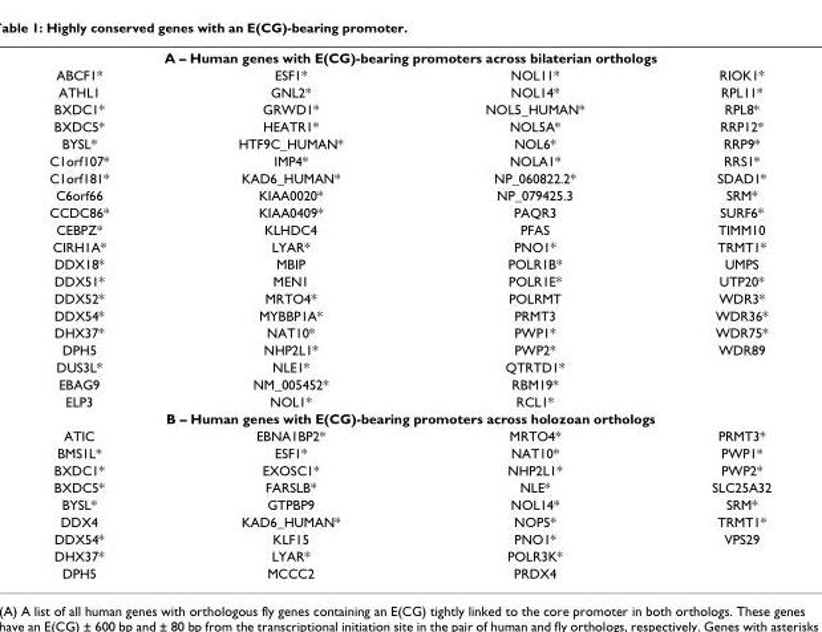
<table><tbody><tr><td colspan="4">A – Human genes with E(CG)-bearing promoters across bilaterian orthologs</td></tr><tr><td>ABCF1*</td><td>ESF1*</td><td>NOL11*</td><td>RIOK1*</td></tr><tr><td>ATHL1</td><td>GNL2*</td><td>NOL14*</td><td>RPL11*</td></tr><tr><td>BXDC1*</td><td>GRWD1*</td><td>NOL5_HUMAN*</td><td>RPL8*</td></tr><tr><td>BXDC5*</td><td>HEATR1*</td><td>NOL5A*</td><td>RRP12*</td></tr><tr><td>BYSL*</td><td>HTF9C_HUMAN*</td><td>NOL6*</td><td>RRP9*</td></tr><tr><td>C1orf107*</td><td>IMP4*</td><td>NOLA1*</td><td>RRS1*</td></tr><tr><td>C1orf181*</td><td>KAD6_HUMAN*</td><td>NP_060822.2*</td><td>SDAD1*</td></tr><tr><td>C6orf66</td><td>KIAA0020*</td><td>NP_079425.3</td><td>SRM*</td></tr><tr><td>CCDC86*</td><td>KIAA0409*</td><td>PAQR3</td><td>SURF6*</td></tr><tr><td>CEBPZ*</td><td>KLHDC4</td><td>PFAS</td><td>TIMM10</td></tr><tr><td>CIRH1A*</td><td>LYAR*</td><td>PNO1*</td><td>TRMT1*</td></tr><tr><td>DDX18*</td><td>MBIP</td><td>POLR1B*</td><td>UMPS</td></tr><tr><td>DDX51*</td><td>MEN1</td><td>POLR1E*</td><td>UTP20*</td></tr><tr><td>DDX52*</td><td>MRTO4*</td><td>POLRMT</td><td>WDR3*</td></tr><tr><td>DDX54*</td><td>MYBBP1A*</td><td>PRMT3</td><td>WDR36*</td></tr><tr><td>DHX37*</td><td>NAT10*</td><td>PWP1*</td><td>WDR75*</td></tr><tr><td>DPH5</td><td>NHP2L1*</td><td>PWP2*</td><td>WDR89</td></tr><tr><td>DUS3L*</td><td>NLE1*</td><td>QTRTD1*</td><td></td></tr><tr><td>EBAG9</td><td>NM_005452*</td><td>RBM19*</td><td></td></tr><tr><td>ELP3</td><td>NOL1*</td><td>RCL1*</td><td></td></tr><tr><td colspan="4">B – Human genes with E(CG)-bearing promoters across holozoan orthologs</td></tr><tr><td>ATIC</td><td>EBNA1BP2*</td><td>MRTO4*</td><td>PRMT3*</td></tr><tr><td>BMS1L*</td><td>ESF1*</td><td>NAT10*</td><td>PWP1*</td></tr><tr><td>BXDC1*</td><td>EXOSC1*</td><td>NHP2L1*</td><td>PWP2*</td></tr><tr><td>BXDC5*</td><td>FARSLB*</td><td>NLE*</td><td>SLC25A32</td></tr><tr><td>BYSL*</td><td>GTPBP9</td><td>NOL14*</td><td>SRM*</td></tr><tr><td>DDX4</td><td>KAD6_HUMAN*</td><td>NOP5*</td><td>TRMT1*</td></tr><tr><td>DDX54*</td><td>KLF15</td><td>PNO1*</td><td>VPS29</td></tr><tr><td>DHX37*</td><td>LYAR*</td><td>POLR3K*</td><td></td></tr><tr><td>DPH5</td><td>MCCC2</td><td>PRDX4</td><td></td></tr></tbody></table>